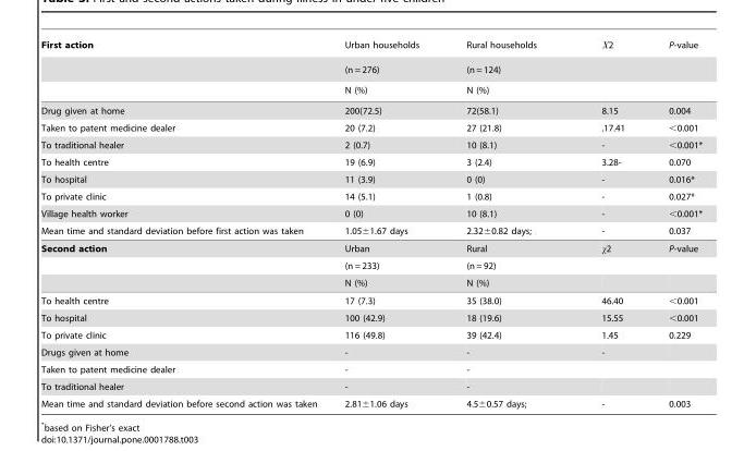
<table><thead><tr><td rowspan="3">First action</td><td rowspan="3">Urban households (n = 276) N (%)</td><td rowspan="3">Rural households (n = 124) N (%)</td><td rowspan="3">X2</td><td rowspan="3">P-value</td></tr><tr></tr><tr></tr></thead><tbody><tr><td>Drug given at home</td><td>200(72.5)</td><td>72(58.1)</td><td>8.15</td><td>0.004</td></tr><tr><td>Taken to patent medicine dealer</td><td>20 (7.2)</td><td>27 (21.8)</td><td>.17.41</td><td>&lt;0.001</td></tr><tr><td>To traditional healer</td><td>2 (0.7)</td><td>10 (8.1)</td><td>-</td><td>&lt;0.001*</td></tr><tr><td>To health centre</td><td>19 (6.9)</td><td>3 (2.4)</td><td>3.28-</td><td>0.070</td></tr><tr><td>To hospital</td><td>11 (3.9)</td><td>0 (0)</td><td>-</td><td>0.016*</td></tr><tr><td>To private clinic</td><td>14 (5.1)</td><td>1 (0.8)</td><td>-</td><td>0.027*</td></tr><tr><td>Village health worker</td><td>0 (0)</td><td>10 (8.1)</td><td>-</td><td>&lt;0.001*</td></tr><tr><td>Mean time and standard deviation before first action was taken</td><td>1.05±1.67 days</td><td>2.32±0.82 days;</td><td>-</td><td>0.037</td></tr><tr><td rowspan="3">Second action</td><td>Urban</td><td>Rural</td><td>χ2</td><td>P-value</td></tr><tr><td>(n = 233)</td><td>(n = 92)</td><td></td><td></td></tr><tr><td>N (%)</td><td>N (%)</td><td></td><td></td></tr><tr><td>To health centre</td><td>17 (7.3)</td><td>35 (38.0)</td><td>46.40</td><td>&lt;0.001</td></tr><tr><td>To hospital</td><td>100 (42.9)</td><td>18 (19.6)</td><td>15.55</td><td>&lt;0.001</td></tr><tr><td>To private clinic</td><td>116 (49.8)</td><td>39 (42.4)</td><td>1.45</td><td>0.229</td></tr><tr><td>Drugs given at home</td><td>-</td><td>-</td><td>-</td><td></td></tr><tr><td>Taken to patent medicine dealer</td><td>-</td><td>-</td><td></td><td></td></tr><tr><td>To traditional healer</td><td>-</td><td>-</td><td></td><td></td></tr><tr><td>Mean time and standard deviation before second action was taken</td><td>2.81±1.06 days</td><td>4.5±0.57 days;</td><td>-</td><td>0.003</td></tr></tbody></table>